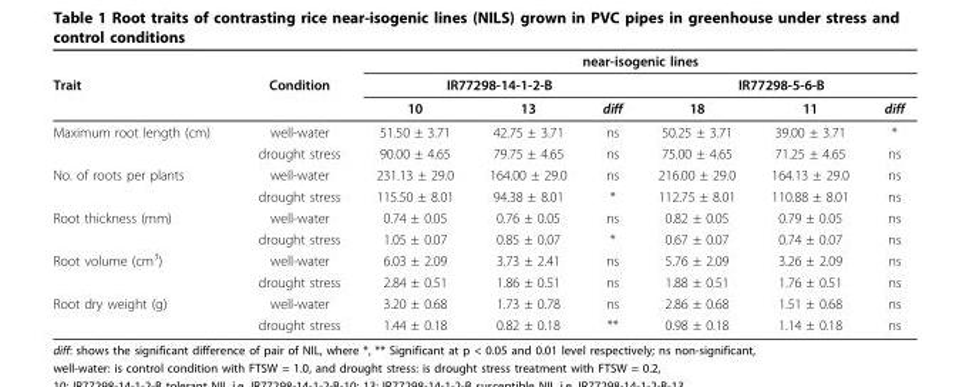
<table><thead><tr><td rowspan="3">Trait</td><td rowspan="3">Condition</td><td colspan="6">near-isogenic lines</td></tr><tr><td colspan="3">IR77298-14-1-2-B</td><td colspan="3">IR77298-5-6-B</td></tr><tr><td>10</td><td>13</td><td>diff</td><td>18</td><td>11</td><td>diff</td></tr></thead><tbody><tr><td rowspan="2">Maximum root length (cm)</td><td>well-water</td><td>51.50 ± 3.71</td><td>42.75 ± 3.71</td><td>ns</td><td>50.25 ± 3.71</td><td>39.00 ± 3.71</td><td>*</td></tr><tr><td>drought stress</td><td>90.00 ± 4.65</td><td>79.75 ± 4.65</td><td>ns</td><td>75.00 ± 4.65</td><td>71.25 ± 4.65</td><td>ns</td></tr><tr><td rowspan="2">No. of roots per plants</td><td>well-water</td><td>231.13 ± 29.0</td><td>164.00 ± 29.0</td><td>ns</td><td>216.00 ± 29.0</td><td>164.13 ± 29.0</td><td>ns</td></tr><tr><td>drought stress</td><td>115.50 ± 8.01</td><td>94.38 ± 8.01</td><td>*</td><td>112.75 ± 8.01</td><td>110.88 ± 8.01</td><td>ns</td></tr><tr><td rowspan="2">Root thickness (mm)</td><td>well-water</td><td>0.74 ± 0.05</td><td>0.76 ± 0.05</td><td>ns</td><td>0.82 ± 0.05</td><td>0.79 ± 0.05</td><td>ns</td></tr><tr><td>drought stress</td><td>1.05 ± 0.07</td><td>0.85 ± 0.07</td><td>*</td><td>0.67 ± 0.07</td><td>0.74 ± 0.07</td><td>ns</td></tr><tr><td rowspan="2">Root volume (cm<sup>3</sup>)</td><td>well-water</td><td>6.03 ± 2.09</td><td>3.73 ± 2.41</td><td>ns</td><td>5.76 ± 2.09</td><td>3.26 ± 2.09</td><td>ns</td></tr><tr><td>drought stress</td><td>2.84 ± 0.51</td><td>1.86 ± 0.51</td><td>ns</td><td>1.88 ± 0.51</td><td>1.76 ± 0.51</td><td>ns</td></tr><tr><td rowspan="2">Root dry weight (g)</td><td>well-water</td><td>3.20 ± 0.68</td><td>1.73 ± 0.78</td><td>ns</td><td>2.86 ± 0.68</td><td>1.51 ± 0.68</td><td>ns</td></tr><tr><td>drought stress</td><td>1.44 ± 0.18</td><td>0.82 ± 0.18</td><td>**</td><td>0.98 ± 0.18</td><td>1.14 ± 0.18</td><td>ns</td></tr></tbody></table>